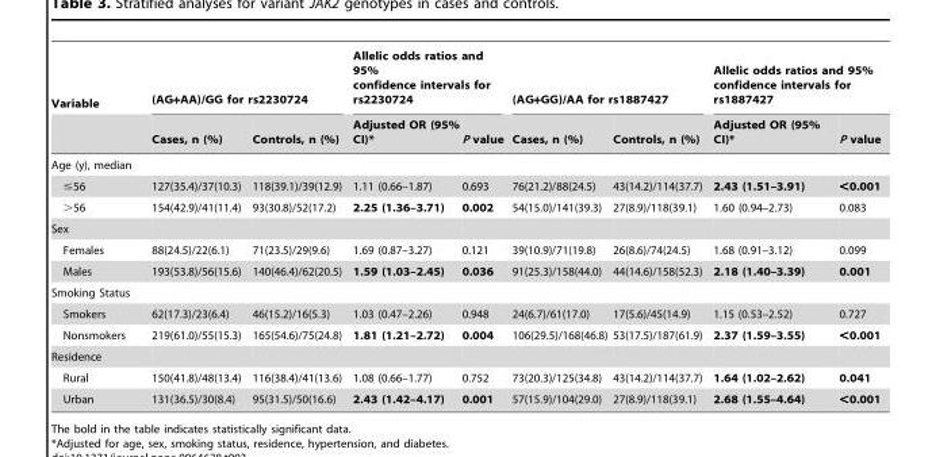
<table><thead><tr><td rowspan="2">Variable</td><td colspan="2">(AG+AA)/GG for rs2230724</td><td colspan="2">Allelic odds ratios and 95% confidence intervals for rs2230724</td><td colspan="2">(AG+GG)/AA for rs1887427</td><td colspan="2">Allelic odds ratios and 95% confidence intervals for rs1887427</td></tr><tr><td>Cases, n (%)</td><td>Controls, n (%)</td><td>Adjusted OR (95% CI)*</td><td>P value</td><td>Cases, n (%)</td><td>Controls, n (%)</td><td>Adjusted OR (95% CI)*</td><td>P value</td></tr></thead><tbody><tr><td colspan="9">Age (y), median</td></tr><tr><td>≤56</td><td>127(35.4)/37(10.3)</td><td>118(39.1)/39(12.9)</td><td>1.11 (0.66–1.87)</td><td>0.693</td><td>76(21.2)/88(24.5)</td><td>43(14.2)/114(37.7)</td><td>2.43 (1.51–3.91)</td><td>&lt;0.001</td></tr><tr><td>&gt;56</td><td>154(42.9)/41(11.4)</td><td>93(30.8)/52(17.2)</td><td>2.25 (1.36–3.71)</td><td>0.002</td><td>54(15.0)/141(39.3)</td><td>27(8.9)/118(39.1)</td><td>1.60 (0.94–2.73)</td><td>0.083</td></tr><tr><td colspan="9">Sex</td></tr><tr><td>Females</td><td>88(24.5)/22(6.1)</td><td>71(23.5)/29(9.6)</td><td>1.69 (0.87–3.27)</td><td>0.121</td><td>39(10.9)/71(19.8)</td><td>26(8.6)/74(24.5)</td><td>1.68 (0.91–3.12)</td><td>0.099</td></tr><tr><td>Males</td><td>193(53.8)/56(15.6)</td><td>140(46.4)/62(20.5)</td><td>1.59 (1.03–2.45)</td><td>0.036</td><td>91(25.3)/158(44.0)</td><td>44(14.6)/158(52.3)</td><td>2.18 (1.40–3.39)</td><td>0.001</td></tr><tr><td colspan="9">Smoking Status</td></tr><tr><td>Smokers</td><td>62(17.3)/23(6.4)</td><td>46(15.2)/16(5.3)</td><td>1.03 (0.47–2.26)</td><td>0.948</td><td>24(6.7)/61(17.0)</td><td>17(5.6)/45(14.9)</td><td>1.15 (0.53–2.52)</td><td>0.727</td></tr><tr><td>Nonsmokers</td><td>219(61.0)/55(15.3)</td><td>165(54.6)/75(24.8)</td><td>1.81 (1.21–2.72)</td><td>0.004</td><td>106(29.5)/168(46.8)</td><td>53(17.5)/187(61.9)</td><td>2.37 (1.59–3.55)</td><td>&lt;0.001</td></tr><tr><td colspan="9">Residence</td></tr><tr><td>Rural</td><td>150(41.8)/48(13.4)</td><td>116(38.4)/41(13.6)</td><td>1.08 (0.66–1.77)</td><td>0.752</td><td>73(20.3)/125(34.8)</td><td>43(14.2)/114(37.7)</td><td>1.64 (1.02–2.62)</td><td>0.041</td></tr><tr><td>Urban</td><td>131(36.5)/30(8.4)</td><td>95(31.5)/50(16.6)</td><td>2.43 (1.42–4.17)</td><td>0.001</td><td>57(15.9)/104(29.0)</td><td>27(8.9)/118(39.1)</td><td>2.68 (1.55–4.64)</td><td>&lt;0.001</td></tr></tbody></table>